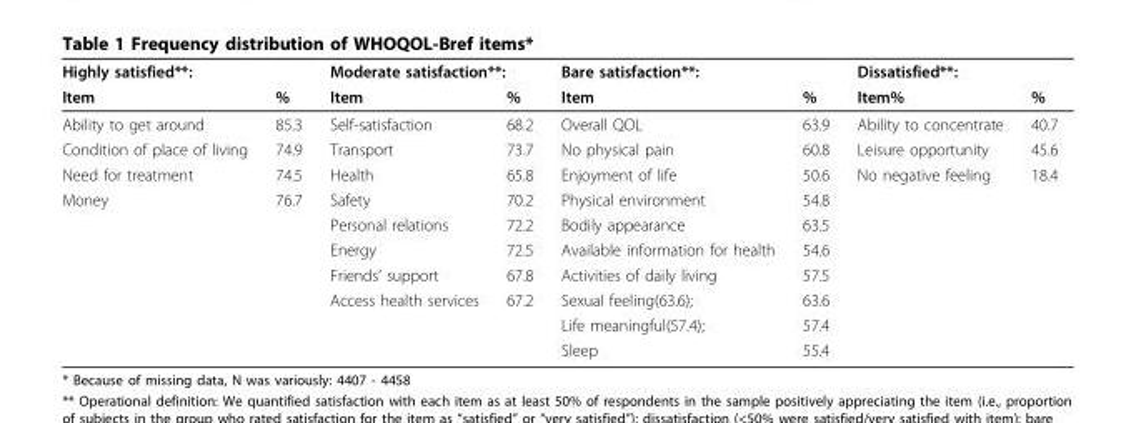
<table><thead><tr><td colspan="2">Highly satisfied**:</td><td colspan="2">Moderate satisfaction**:</td><td colspan="2">Bare satisfaction**:</td><td colspan="2">Dissatisfied**:</td></tr><tr><td>Item</td><td>%</td><td>Item</td><td>%</td><td>Item</td><td>%</td><td>Item%</td><td>%</td></tr></thead><tbody><tr><td>Ability to get around</td><td>85.3</td><td>Self-satisfaction</td><td>68.2</td><td>Overall QOL</td><td>63.9</td><td>Ability to concentrate</td><td>40.7</td></tr><tr><td>Condition of place of living</td><td>74.9</td><td>Transport</td><td>73.7</td><td>No physical pain</td><td>60.8</td><td>Leisure opportunity</td><td>45.6</td></tr><tr><td>Need for treatment</td><td>74.5</td><td>Health</td><td>65.8</td><td>Enjoyment of life</td><td>50.6</td><td>No negative feeling</td><td>18.4</td></tr><tr><td rowspan="7">Money</td><td>76.7</td><td>Safety</td><td>70.2</td><td>Physical environment</td><td>54.8</td><td></td><td></td></tr><tr><td></td><td>Personal relations</td><td>72.2</td><td>Bodily appearance</td><td>63.5</td><td></td><td></td></tr><tr><td></td><td>Energy</td><td>72.5</td><td>Available information for health</td><td>54.6</td><td></td><td></td></tr><tr><td></td><td>Friends’ support</td><td>67.8</td><td>Activities of daily living</td><td>57.5</td><td></td><td></td></tr><tr><td></td><td>Access health services</td><td>67.2</td><td>Sexual feeling(63.6);</td><td>63.6</td><td></td><td></td></tr><tr><td></td><td></td><td></td><td>Life meaningful(57.4);</td><td>57.4</td><td></td><td></td></tr><tr><td></td><td></td><td></td><td>Sleep</td><td>55.4</td><td></td><td></td></tr></tbody></table>